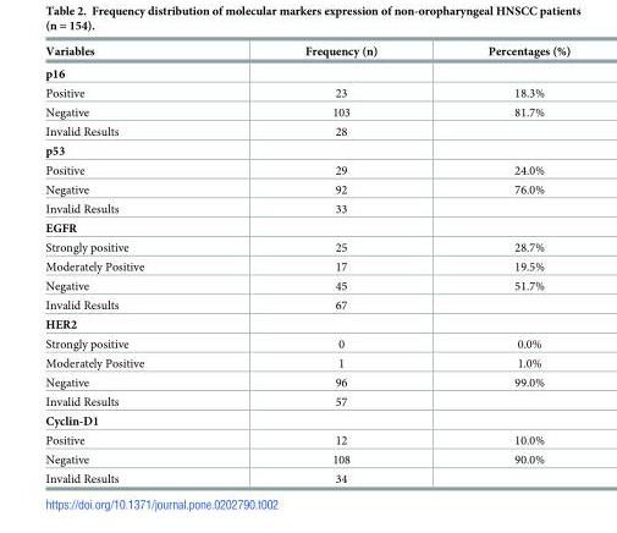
<table><thead><tr><td>Variables</td><td>Frequency (n)</td><td>Percentages (%)</td></tr></thead><tbody><tr><td colspan="3">p16</td></tr><tr><td>Positive</td><td>23</td><td>18.3%</td></tr><tr><td>Negative</td><td>103</td><td>81.7%</td></tr><tr><td>Invalid Results</td><td>28</td><td></td></tr><tr><td colspan="3">p53</td></tr><tr><td>Positive</td><td>29</td><td>24.0%</td></tr><tr><td>Negative</td><td>92</td><td>76.0%</td></tr><tr><td>Invalid Results</td><td>33</td><td></td></tr><tr><td colspan="3">EGFR</td></tr><tr><td>Strongly positive</td><td>25</td><td>28.7%</td></tr><tr><td>Moderately Positive</td><td>17</td><td>19.5%</td></tr><tr><td>Negative</td><td>45</td><td>51.7%</td></tr><tr><td>Invalid Results</td><td>67</td><td></td></tr><tr><td colspan="3">HER2</td></tr><tr><td>Strongly positive</td><td>0</td><td>0.0%</td></tr><tr><td>Moderately Positive</td><td>1</td><td>1.0%</td></tr><tr><td>Negative</td><td>96</td><td>99.0%</td></tr><tr><td>Invalid Results</td><td>57</td><td></td></tr><tr><td colspan="3">Cyclin-D1</td></tr><tr><td>Positive</td><td>12</td><td>10.0%</td></tr><tr><td>Negative</td><td>108</td><td>90.0%</td></tr><tr><td>Invalid Results</td><td>34</td><td></td></tr></tbody></table>